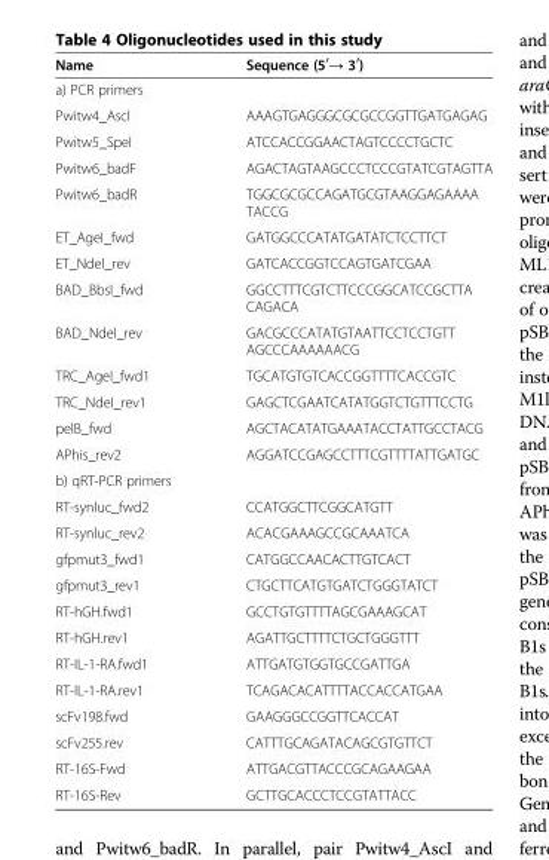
<table><thead><tr><td>Name</td><td>Sequence (5<sup>′</sup>→ 3<sup>′</sup>)</td></tr></thead><tbody><tr><td colspan="2">a) PCR primers</td></tr><tr><td>Pwitw4_AscI</td><td>AAAGTGAGGGCGCGCCGGTTGATGAGAG</td></tr><tr><td>Pwitw5_SpeI</td><td>ATCCACCGGAACTAGTCCCCTGCTC</td></tr><tr><td>Pwitw6_badF</td><td>AGACTAGTAAGCCCTCCCGTATCGTAGTTA</td></tr><tr><td>Pwitw6_badR</td><td>TGGCGCGCCAGATGCGTAAGGAGAAAA TACCG</td></tr><tr><td>ET_AgeI_fwd</td><td>GATGGCCCATATGATATCTCCTTCT</td></tr><tr><td>ET_NdeI_rev</td><td>GATCACCGGTCCAGTGATCGAA</td></tr><tr><td>BAD_BbsI_fwd</td><td>GGCCTTTCGTCTTCCCGGCATCCGCTTA CAGACA</td></tr><tr><td>BAD_NdeI_rev</td><td>GACGCCCATATGTAATTCCTCCTGTT AGCCCAAAAAACG</td></tr><tr><td>TRC_AgeI_fwd1</td><td>TGCATGTGTCACCGGTTTTCACCGTC</td></tr><tr><td>TRC_NdeI_rev1</td><td>GAGCTCGAATCATATGGTCTGTTTCCTG</td></tr><tr><td>pelB_fwd</td><td>AGCTACATATGAAATACCTATTGCCTACG</td></tr><tr><td>APhis_rev2</td><td>AGGATCCGAGCCTTTCGTTTTATTGATGC</td></tr><tr><td colspan="2">b) qRT-PCR primers</td></tr><tr><td>RT-synluc_fwd2</td><td>CCATGGCTTCGGCATGTT</td></tr><tr><td>RT-synluc_rev2</td><td>ACACGAAAGCCGCAAATCA</td></tr><tr><td>gfpmut3_fwd1</td><td>CATGGCCAACACTTGTCACT</td></tr><tr><td>gfpmut3_rev1</td><td>CTGCTTCATGTGATCTGGGTATCT</td></tr><tr><td>RT-hGH.fwd1</td><td>GCCTGTGTTTTAGCGAAAGCAT</td></tr><tr><td>RT-hGH.rev1</td><td>AGATTGCTTTTCTGCTGGGTTT</td></tr><tr><td>RT-IL-1-RA.fwd1</td><td>ATTGATGTGGTGCCGATTGA</td></tr><tr><td>RT-IL-1-RA.rev1</td><td>TCAGACACATTTTACCACCATGAA</td></tr><tr><td>scFv198.fwd</td><td>GAAGGGCCGGTTCACCAT</td></tr><tr><td>scFv255.rev</td><td>CATTTGCAGATACAGCGTGTTCT</td></tr><tr><td>RT-16S-Fwd</td><td>ATTGACGTTACCCGCAGAAGAA</td></tr><tr><td>RT-16S-Rev</td><td>GCTTGCACCCTCCGTATTACC</td></tr></tbody></table>